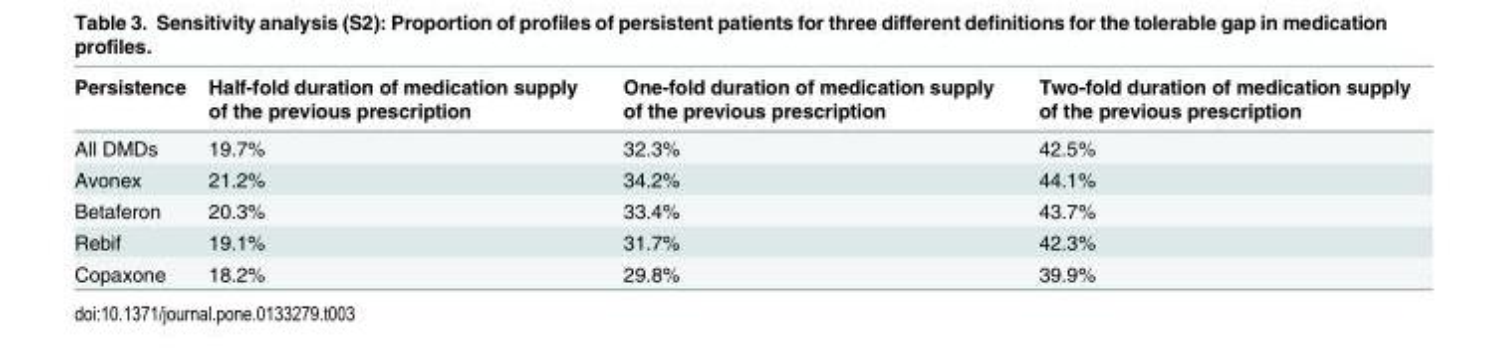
<table><thead><tr><td>Persistence</td><td>Half-fold duration of medication supply of the previous prescription</td><td>One-fold duration of medication supply of the previous prescription</td><td>Two-fold duration of medication supply of the previous prescription</td></tr></thead><tbody><tr><td>All DMDs</td><td>19.7%</td><td>32.3%</td><td>42.5%</td></tr><tr><td>Avonex</td><td>21.2%</td><td>34.2%</td><td>44.1%</td></tr><tr><td>Betaferon</td><td>20.3%</td><td>33.4%</td><td>43.7%</td></tr><tr><td>Rebif</td><td>19.1%</td><td>31.7%</td><td>42.3%</td></tr><tr><td>Copaxone</td><td>18.2%</td><td>29.8%</td><td>39.9%</td></tr></tbody></table>